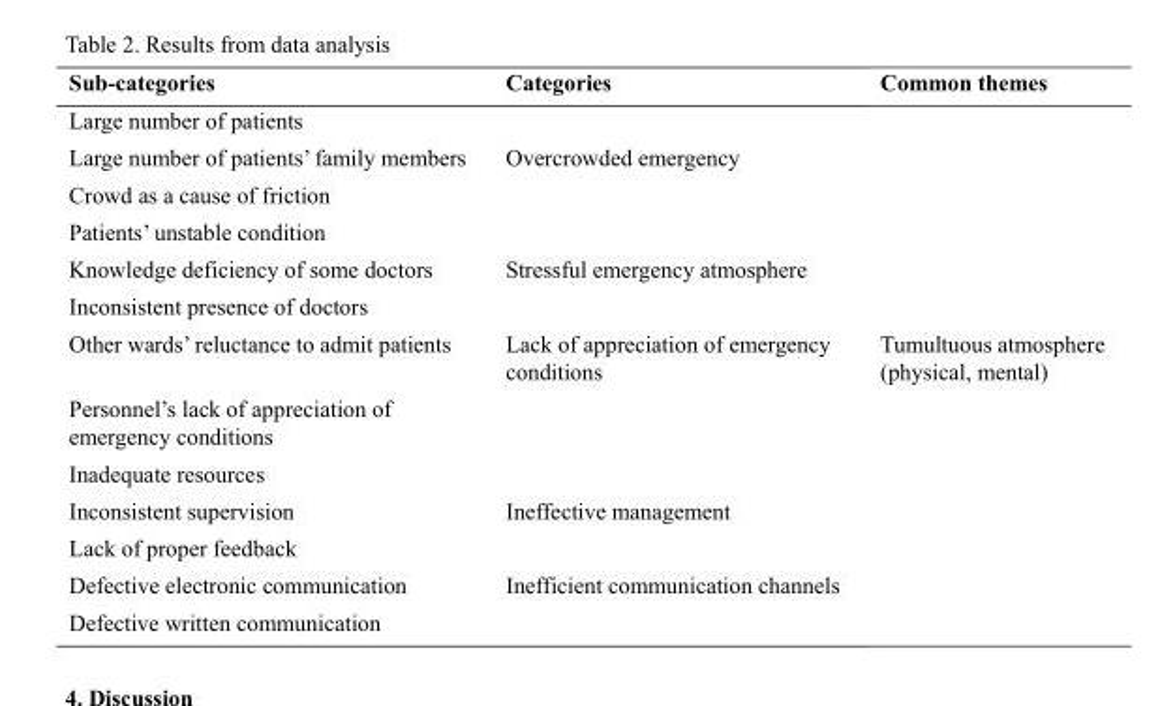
<table><thead><tr><td>Sub-categories</td><td>Categories</td><td>Common themes</td></tr></thead><tbody><tr><td colspan="3">Large number of patients</td></tr><tr><td>Large number of patients’ family members</td><td>Overcrowded emergency</td><td></td></tr><tr><td colspan="3">Crowd as a cause of friction</td></tr><tr><td colspan="3">Patients’ unstable condition</td></tr><tr><td>Knowledge deficiency of some doctors</td><td>Stressful emergency atmosphere</td><td></td></tr><tr><td colspan="3">Inconsistent presence of doctors</td></tr><tr><td>Other wards’ reluctance to admit patients</td><td>Lack of appreciation of emergency conditions</td><td>Tumultuous atmosphere (physical, mental)</td></tr><tr><td colspan="3">Personnel’s lack of appreciation of emergency conditions</td></tr><tr><td colspan="3">Inadequate resources</td></tr><tr><td>Inconsistent supervision</td><td>Ineffective management</td><td></td></tr><tr><td colspan="3">Lack of proper feedback</td></tr><tr><td>Defective electronic communication</td><td>Inefficient communication channels</td><td></td></tr><tr><td>Defective written communication</td><td></td><td></td></tr></tbody></table>